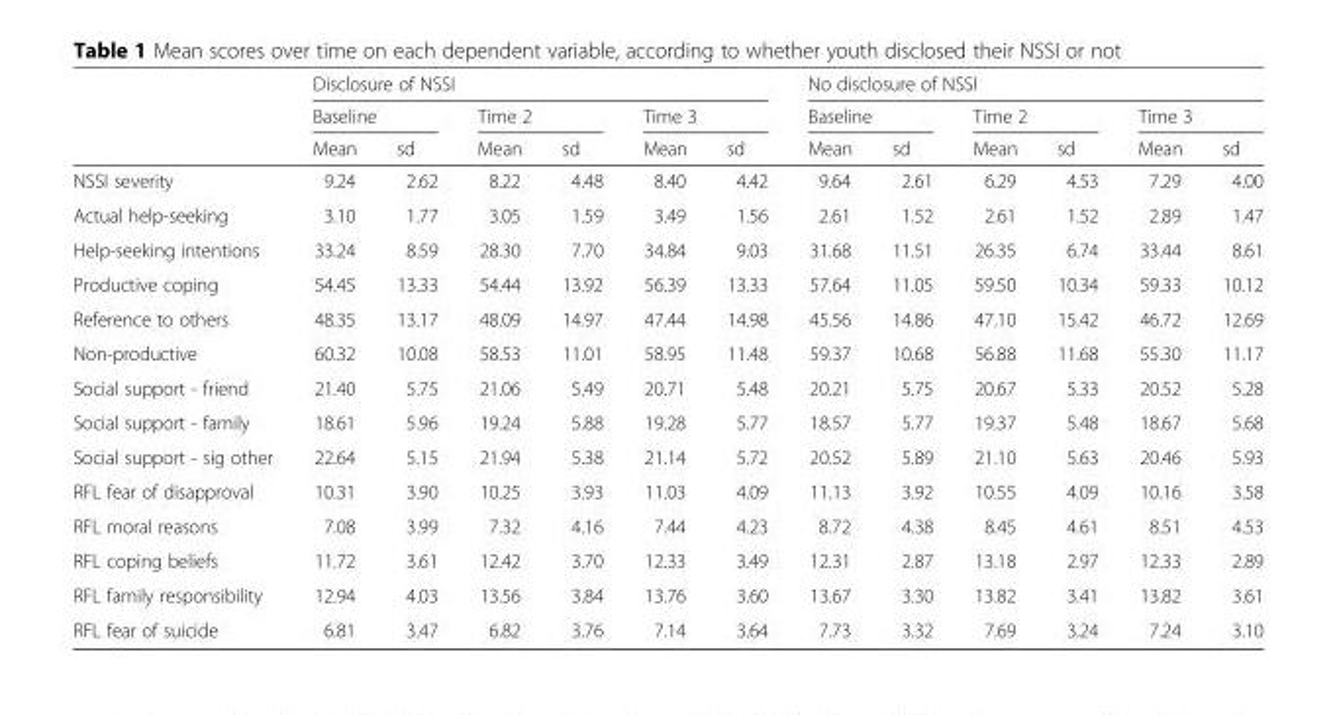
<table><thead><tr><td rowspan="3"></td><td colspan="6">Disclosure of NSSI</td><td colspan="6">No disclosure of NSSI</td></tr><tr><td colspan="2">Baseline</td><td colspan="2">Time 2</td><td colspan="2">Time 3</td><td colspan="2">Baseline</td><td colspan="2">Time 2</td><td colspan="2">Time 3</td></tr><tr><td>Mean</td><td>sd</td><td>Mean</td><td>sd</td><td>Mean</td><td>sd</td><td>Mean</td><td>sd</td><td>Mean</td><td>sd</td><td>Mean</td><td>sd</td></tr></thead><tbody><tr><td>NSSI severity</td><td>9.24</td><td>2.62</td><td>8.22</td><td>4.48</td><td>8.40</td><td>4.42</td><td>9.64</td><td>2.61</td><td>6.29</td><td>4.53</td><td>7.29</td><td>4.00</td></tr><tr><td>Actual help-seeking</td><td>3.10</td><td>1.77</td><td>3.05</td><td>1.59</td><td>3.49</td><td>1.56</td><td>2.61</td><td>1.52</td><td>2.61</td><td>1.52</td><td>2.89</td><td>1.47</td></tr><tr><td>Help-seeking intentions</td><td>33.24</td><td>8.59</td><td>28.30</td><td>7.70</td><td>34.84</td><td>9.03</td><td>31.68</td><td>11.51</td><td>26.35</td><td>6.74</td><td>33.44</td><td>8.61</td></tr><tr><td>Productive coping</td><td>54.45</td><td>13.33</td><td>54.44</td><td>13.92</td><td>56.39</td><td>13.33</td><td>57.64</td><td>11.05</td><td>59.50</td><td>10.34</td><td>59.33</td><td>10.12</td></tr><tr><td>Reference to others</td><td>48.35</td><td>13.17</td><td>48.09</td><td>14.97</td><td>47.44</td><td>14.98</td><td>45.56</td><td>14.86</td><td>47.10</td><td>15.42</td><td>46.72</td><td>12.69</td></tr><tr><td>Non-productive</td><td>60.32</td><td>10.08</td><td>58.53</td><td>11.01</td><td>58.95</td><td>11.48</td><td>59.37</td><td>10.68</td><td>56.88</td><td>11.68</td><td>55.30</td><td>11.17</td></tr><tr><td>Social support - friend</td><td>21.40</td><td>5.75</td><td>21.06</td><td>5.49</td><td>20.71</td><td>5.48</td><td>20.21</td><td>5.75</td><td>20.67</td><td>5.33</td><td>20.52</td><td>5.28</td></tr><tr><td>Social support - family</td><td>18.61</td><td>5.96</td><td>19.24</td><td>5.88</td><td>19.28</td><td>5.77</td><td>18.57</td><td>5.77</td><td>19.37</td><td>5.48</td><td>18.67</td><td>5.68</td></tr><tr><td>Social support - sig other</td><td>22.64</td><td>5.15</td><td>21.94</td><td>5.38</td><td>21.14</td><td>5.72</td><td>20.52</td><td>5.89</td><td>21.10</td><td>5.63</td><td>20.46</td><td>5.93</td></tr><tr><td>RFL fear of disapproval</td><td>10.31</td><td>3.90</td><td>10.25</td><td>3.93</td><td>11.03</td><td>4.09</td><td>11.13</td><td>3.92</td><td>10.55</td><td>4.09</td><td>10.16</td><td>3.58</td></tr><tr><td>RFL moral reasons</td><td>7.08</td><td>3.99</td><td>7.32</td><td>4.16</td><td>7.44</td><td>4.23</td><td>8.72</td><td>4.38</td><td>8.45</td><td>4.61</td><td>8.51</td><td>4.53</td></tr><tr><td>RFL coping beliefs</td><td>11.72</td><td>3.61</td><td>12.42</td><td>3.70</td><td>12.33</td><td>3.49</td><td>12.31</td><td>2.87</td><td>13.18</td><td>2.97</td><td>12.33</td><td>2.89</td></tr><tr><td>RFL family responsibility</td><td>12.94</td><td>4.03</td><td>13.56</td><td>3.84</td><td>13.76</td><td>3.60</td><td>13.67</td><td>3.30</td><td>13.82</td><td>3.41</td><td>13.82</td><td>3.61</td></tr><tr><td>RFL fear of suicide</td><td>6.81</td><td>3.47</td><td>6.82</td><td>3.76</td><td>7.14</td><td>3.64</td><td>7.73</td><td>3.32</td><td>7.69</td><td>3.24</td><td>7.24</td><td>3.10</td></tr></tbody></table>